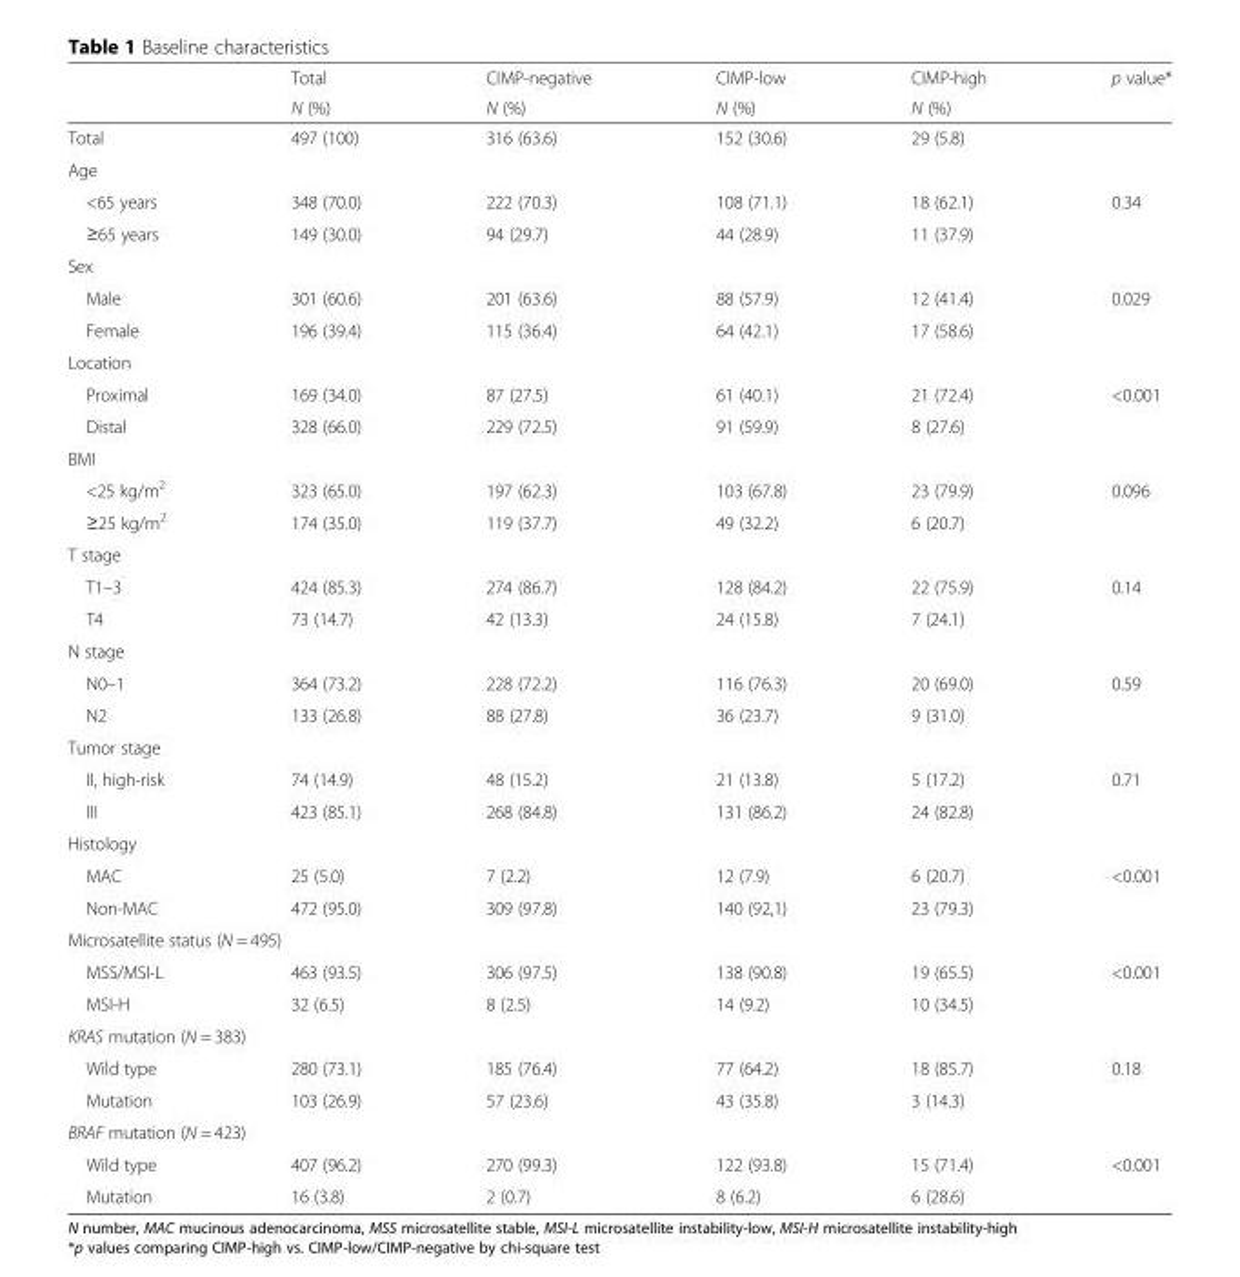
<table><thead><tr><td rowspan="2"></td><td rowspan="2">Total N (%)</td><td rowspan="2">CIMP-negative N (%)</td><td rowspan="2">CIMP-low N (%)</td><td rowspan="2">CIMP-high N (%)</td><td rowspan="2">p value*</td></tr><tr></tr></thead><tbody><tr><td>Total</td><td>497 (100)</td><td>316 (63.6)</td><td>152 (30.6)</td><td>29 (5.8)</td><td></td></tr><tr><td colspan="6">Age</td></tr><tr><td>&lt;65 years</td><td>348 (70.0)</td><td>222 (70.3)</td><td>108 (71.1)</td><td>18 (62.1)</td><td>0.34</td></tr><tr><td>≥65 years</td><td>149 (30.0)</td><td>94 (29.7)</td><td>44 (28.9)</td><td>11 (37.9)</td><td></td></tr><tr><td colspan="6">Sex</td></tr><tr><td>Male</td><td>301 (60.6)</td><td>201 (63.6)</td><td>88 (57.9)</td><td>12 (41.4)</td><td>0.029</td></tr><tr><td>Female</td><td>196 (39.4)</td><td>115 (36.4)</td><td>64 (42.1)</td><td>17 (58.6)</td><td></td></tr><tr><td colspan="6">Location</td></tr><tr><td>Proximal</td><td>169 (34.0)</td><td>87 (27.5)</td><td>61 (40.1)</td><td>21 (72.4)</td><td>&lt;0.001</td></tr><tr><td>Distal</td><td>328 (66.0)</td><td>229 (72.5)</td><td>91 (59.9)</td><td>8 (27.6)</td><td></td></tr><tr><td colspan="6">BMI</td></tr><tr><td>&lt;25 kg/m<sup>2</sup></td><td>323 (65.0)</td><td>197 (62.3)</td><td>103 (67.8)</td><td>23 (79.9)</td><td>0.096</td></tr><tr><td>≥25 kg/m<sup>2</sup></td><td>174 (35.0)</td><td>119 (37.7)</td><td>49 (32.2)</td><td>6 (20.7)</td><td></td></tr><tr><td colspan="6">T stage</td></tr><tr><td>T1–3</td><td>424 (85.3)</td><td>274 (86.7)</td><td>128 (84.2)</td><td>22 (75.9)</td><td>0.14</td></tr><tr><td>T4</td><td>73 (14.7)</td><td>42 (13.3)</td><td>24 (15.8)</td><td>7 (24.1)</td><td></td></tr><tr><td colspan="6">N stage</td></tr><tr><td>N0–1</td><td>364 (73.2)</td><td>228 (72.2)</td><td>116 (76.3)</td><td>20 (69.0)</td><td>0.59</td></tr><tr><td>N2</td><td>133 (26.8)</td><td>88 (27.8)</td><td>36 (23.7)</td><td>9 (31.0)</td><td></td></tr><tr><td colspan="6">Tumor stage</td></tr><tr><td>II, high-risk</td><td>74 (14.9)</td><td>48 (15.2)</td><td>21 (13.8)</td><td>5 (17.2)</td><td>0.71</td></tr><tr><td>III</td><td>423 (85.1)</td><td>268 (84.8)</td><td>131 (86.2)</td><td>24 (82.8)</td><td></td></tr><tr><td colspan="6">Histology</td></tr><tr><td>MAC</td><td>25 (5.0)</td><td>7 (2.2)</td><td>12 (7.9)</td><td>6 (20.7)</td><td>&lt;0.001</td></tr><tr><td>Non-MAC</td><td>472 (95.0)</td><td>309 (97.8)</td><td>140 (92,1)</td><td>23 (79.3)</td><td></td></tr><tr><td colspan="6">Microsatellite status (N = 495)</td></tr><tr><td>MSS/MSI-L</td><td>463 (93.5)</td><td>306 (97.5)</td><td>138 (90.8)</td><td>19 (65.5)</td><td>&lt;0.001</td></tr><tr><td>MSI-H</td><td>32 (6.5)</td><td>8 (2.5)</td><td>14 (9.2)</td><td>10 (34.5)</td><td></td></tr><tr><td colspan="6">KRAS mutation (N = 383)</td></tr><tr><td>Wild type</td><td>280 (73.1)</td><td>185 (76.4)</td><td>77 (64.2)</td><td>18 (85.7)</td><td>0.18</td></tr><tr><td>Mutation</td><td>103 (26.9)</td><td>57 (23.6)</td><td>43 (35.8)</td><td>3 (14.3)</td><td></td></tr><tr><td colspan="6">BRAF mutation (N = 423)</td></tr><tr><td>Wild type</td><td>407 (96.2)</td><td>270 (99.3)</td><td>122 (93.8)</td><td>15 (71.4)</td><td>&lt;0.001</td></tr><tr><td>Mutation</td><td>16 (3.8)</td><td>2 (0.7)</td><td>8 (6.2)</td><td>6 (28.6)</td><td></td></tr></tbody></table>